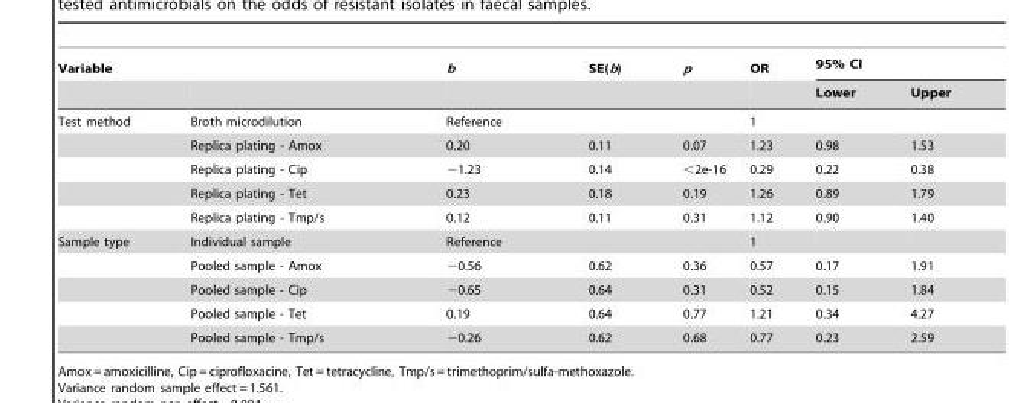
<table><thead><tr><td rowspan="2">Variable</td><td rowspan="2"></td><td rowspan="2">b</td><td rowspan="2">SE(b)</td><td rowspan="2">p</td><td rowspan="2">OR</td><td colspan="2">95% CI</td></tr><tr><td>Lower</td><td>Upper</td></tr></thead><tbody><tr><td rowspan="5">Test method</td><td>Broth microdilution</td><td>Reference</td><td></td><td></td><td>1</td><td></td><td></td></tr><tr><td>Replica plating - Amox</td><td>0.20</td><td>0.11</td><td>0.07</td><td>1.23</td><td>0.98</td><td>1.53</td></tr><tr><td>Replica plating - Cip</td><td>−1.23</td><td>0.14</td><td>&lt;2e-16</td><td>0.29</td><td>0.22</td><td>0.38</td></tr><tr><td>Replica plating - Tet</td><td>0.23</td><td>0.18</td><td>0.19</td><td>1.26</td><td>0.89</td><td>1.79</td></tr><tr><td>Replica plating - Tmp/s</td><td>0.12</td><td>0.11</td><td>0.31</td><td>1.12</td><td>0.90</td><td>1.40</td></tr><tr><td rowspan="5">Sample type</td><td>Individual sample</td><td>Reference</td><td></td><td></td><td>1</td><td></td><td></td></tr><tr><td>Pooled sample - Amox</td><td>−0.56</td><td>0.62</td><td>0.36</td><td>0.57</td><td>0.17</td><td>1.91</td></tr><tr><td>Pooled sample - Cip</td><td>−0.65</td><td>0.64</td><td>0.31</td><td>0.52</td><td>0.15</td><td>1.84</td></tr><tr><td>Pooled sample - Tet</td><td>0.19</td><td>0.64</td><td>0.77</td><td>1.21</td><td>0.34</td><td>4.27</td></tr><tr><td>Pooled sample - Tmp/s</td><td>−0.26</td><td>0.62</td><td>0.68</td><td>0.77</td><td>0.23</td><td>2.59</td></tr></tbody></table>